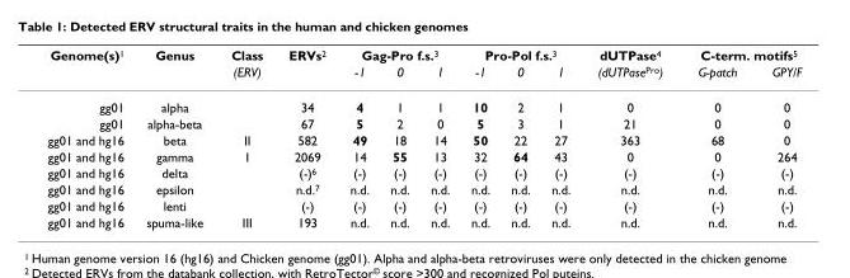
<table><thead><tr><td rowspan="2">Genome(s)<sup>1</sup></td><td rowspan="2">Genus</td><td rowspan="2">Class (ERV)</td><td rowspan="2">ERVs<sup>2</sup></td><td colspan="3">Gag-Pro f.s.<sup>3</sup></td><td colspan="3">Pro-Pol f.s.<sup>3</sup></td><td rowspan="2">dUTPase<sup>4</sup> (dUTPase<sup>Pro</sup>)</td><td colspan="2">C-term. motifs<sup>5</sup></td></tr><tr><td>-1</td><td>0</td><td>1</td><td>-1</td><td>0</td><td>1</td><td>G-patch</td><td>GPY/F</td></tr></thead><tbody><tr><td>gg01</td><td>alpha</td><td></td><td>34</td><td>4</td><td>1</td><td>1</td><td>10</td><td>2</td><td>1</td><td>0</td><td>0</td><td>0</td></tr><tr><td>gg01</td><td>alpha-beta</td><td></td><td>67</td><td>5</td><td>2</td><td>0</td><td>5</td><td>3</td><td>1</td><td>21</td><td>0</td><td>0</td></tr><tr><td>gg01 and hg16</td><td>beta</td><td>II</td><td>582</td><td>49</td><td>18</td><td>14</td><td>50</td><td>22</td><td>27</td><td>363</td><td>68</td><td>0</td></tr><tr><td>gg01 and hg16</td><td>gamma</td><td>I</td><td>2069</td><td>14</td><td>55</td><td>13</td><td>32</td><td>64</td><td>43</td><td>0</td><td>0</td><td>264</td></tr><tr><td>gg01 and hg16</td><td>delta</td><td></td><td>(-)<sup>6</sup></td><td>(-)</td><td>(-)</td><td>(-)</td><td>(-)</td><td>(-)</td><td>(-)</td><td>(-)</td><td>(-)</td><td>(-)</td></tr><tr><td>gg01 and hg16</td><td>epsilon</td><td></td><td>n.d.<sup>7</sup></td><td>n.d.</td><td>n.d.</td><td>n.d.</td><td>n.d.</td><td>n.d.</td><td>n.d.</td><td>n.d.</td><td>n.d.</td><td>n.d.</td></tr><tr><td>gg01 and hg16</td><td>lenti</td><td></td><td>(-)</td><td>(-)</td><td>(-)</td><td>(-)</td><td>(-)</td><td>(-)</td><td>(-)</td><td>(-)</td><td>(-)</td><td>(-)</td></tr><tr><td>gg01 and hg16</td><td>spuma-like</td><td>III</td><td>193</td><td>n.d.</td><td>n.d.</td><td>n.d.</td><td>n.d.</td><td>n.d.</td><td>n.d.</td><td>n.d.</td><td>n.d.</td><td>n.d.</td></tr></tbody></table>